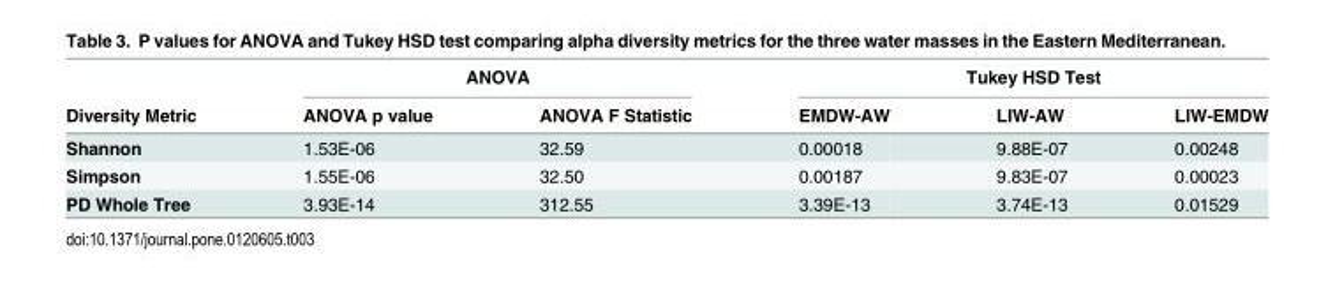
<table><thead><tr><td rowspan="2">Diversity Metric</td><td colspan="2">ANOVA</td><td colspan="3">Tukey HSD Test</td></tr><tr><td>ANOVA p value</td><td>ANOVA F Statistic</td><td>EMDW-AW</td><td>LIW-AW</td><td>LIW-EMDW</td></tr></thead><tbody><tr><td>Shannon</td><td>1.53E-06</td><td>32.59</td><td>0.00018</td><td>9.88E-07</td><td>0.00248</td></tr><tr><td>Simpson</td><td>1.55E-06</td><td>32.50</td><td>0.00187</td><td>9.83E-07</td><td>0.00023</td></tr><tr><td>PD Whole Tree</td><td>3.93E-14</td><td>312.55</td><td>3.39E-13</td><td>3.74E-13</td><td>0.01529</td></tr></tbody></table>